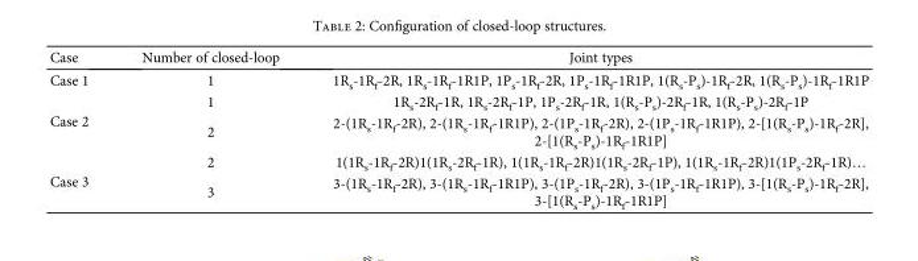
<table><thead><tr><td>Case</td><td>Number of closed-loop</td><td>Joint types</td></tr></thead><tbody><tr><td>Case 1</td><td>1</td><td>1R<sub>s</sub>-1R<sub>f</sub>-2R, 1R<sub>s</sub>-1R<sub>f</sub>-1R1P, 1P<sub>s</sub>-1R<sub>f</sub>-2R, 1P<sub>s</sub>-1R<sub>f</sub>-1R1P, 1(R<sub>s</sub>-P<sub>s</sub>)-1R<sub>f</sub>-2R, 1(R<sub>s</sub>-P<sub>s</sub>)-1R<sub>f</sub>-1R1P</td></tr><tr><td rowspan="2">Case 2</td><td>1</td><td>1R<sub>s</sub>-2R<sub>f</sub>-1R, 1R<sub>s</sub>-2R<sub>f</sub>-1P, 1P<sub>s</sub>-2R<sub>f</sub>-1R, 1(R<sub>s</sub>-P<sub>s</sub>)-2R<sub>f</sub>-1R, 1(R<sub>s</sub>-P<sub>s</sub>)-2R<sub>f</sub>-1P</td></tr><tr><td>2</td><td>2-(1R<sub>s</sub>-1R<sub>f</sub>-2R), 2-(1R<sub>s</sub>-1R<sub>f</sub>-1R1P), 2-(1P<sub>s</sub>-1R<sub>f</sub>-2R), 2-(1P<sub>s</sub>-1R<sub>f</sub>-1R1P), 2-[1(R<sub>s</sub>-P<sub>s</sub>)-1R<sub>f</sub>-2R], 2-[1(R<sub>s</sub>-P<sub>s</sub>)-1R<sub>f</sub>-1R1P]</td></tr><tr><td rowspan="2">Case 3</td><td>2</td><td>1(1R<sub>s</sub>-1R<sub>f</sub>-2R)1(1R<sub>s</sub>-2R<sub>f</sub>-1R), 1(1R<sub>s</sub>-1R<sub>f</sub>-2R)1(1R<sub>s</sub>-2R<sub>f</sub>-1P), 1(1R<sub>s</sub>-1R<sub>f</sub>-2R)1(1P<sub>s</sub>-2R<sub>f</sub>-1R)…</td></tr><tr><td>3</td><td>3-(1R<sub>s</sub>-1R<sub>f</sub>-2R), 3-(1R<sub>s</sub>-1R<sub>f</sub>-1R1P), 3-(1P<sub>s</sub>-1R<sub>f</sub>-2R), 3-(1P<sub>s</sub>-1R<sub>f</sub>-1R1P), 3-[1(R<sub>s</sub>-P<sub>s</sub>)-1R<sub>f</sub>-2R], 3-[1(R<sub>s</sub>-P<sub>s</sub>)-1R<sub>f</sub>-1R1P]</td></tr></tbody></table>